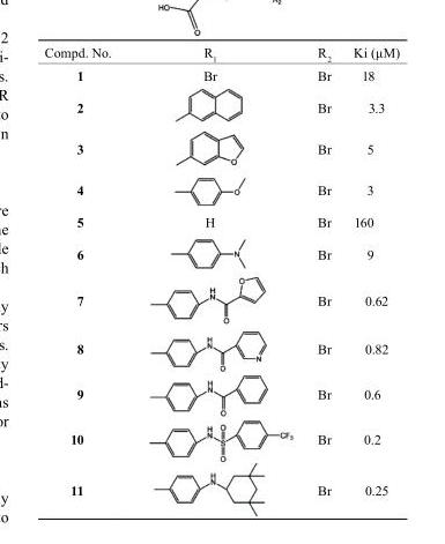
<table><thead><tr><td>Compd. No.</td><td>R<sub>1</sub></td><td>R<sub>2</sub></td><td>Ki (μM)</td></tr></thead><tbody><tr><td>1</td><td>Br</td><td>Br</td><td>18</td></tr><tr><td>2</td><td></td><td>Br</td><td>3.3</td></tr><tr><td>3</td><td></td><td>Br</td><td>5</td></tr><tr><td>4</td><td></td><td>Br</td><td>3</td></tr><tr><td>5</td><td>H</td><td>Br</td><td>160</td></tr><tr><td>6</td><td></td><td>Br</td><td>9</td></tr><tr><td>7</td><td></td><td>Br</td><td>0.62</td></tr><tr><td>8</td><td></td><td>Br</td><td>0.82</td></tr><tr><td>9</td><td></td><td>Br</td><td>0.6</td></tr><tr><td>10</td><td></td><td>Br</td><td>0.2</td></tr><tr><td>11</td><td></td><td>Br</td><td>0.25</td></tr></tbody></table>